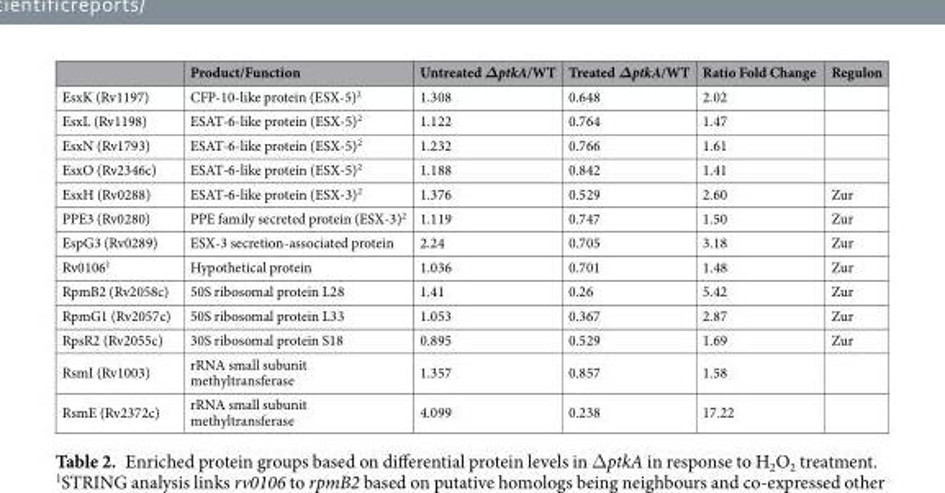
<table><thead><tr><td></td><td>Product/Function</td><td>Untreated ΔptkA/WT</td><td>Treated ΔptkA/WT</td><td>Ratio Fold Change</td><td>Regulon</td></tr></thead><tbody><tr><td>EsxK (Rv1197)</td><td>CFP-10-like protein (ESX-5)<sup>2</sup></td><td>1.308</td><td>0.648</td><td>2.02</td><td></td></tr><tr><td>EsxL (Rv1198)</td><td>ESAT-6-like protein (ESX-5)<sup>2</sup></td><td>1.122</td><td>0.764</td><td>1.47</td><td></td></tr><tr><td>EsxN (Rv1793)</td><td>ESAT-6-like protein (ESX-5)<sup>2</sup></td><td>1.232</td><td>0.766</td><td>1.61</td><td></td></tr><tr><td>EsxO (Rv2346c)</td><td>ESAT-6-like protein (ESX-5)<sup>2</sup></td><td>1.188</td><td>0.842</td><td>1.41</td><td></td></tr><tr><td>EsxH (Rv0288)</td><td>ESAT-6-like protein (ESX-3)<sup>2</sup></td><td>1.376</td><td>0.529</td><td>2.60</td><td>Zur</td></tr><tr><td>PPE3 (Rv0280)</td><td>PPE family secreted protein (ESX-3)<sup>2</sup></td><td>1.119</td><td>0.747</td><td>1.50</td><td>Zur</td></tr><tr><td>EspG3 (Rv0289)</td><td>ESX-3 secretion-associated protein</td><td>2.24</td><td>0.705</td><td>3.18</td><td>Zur</td></tr><tr><td>Rv0106<sup>1</sup></td><td>Hypothetical protein</td><td>1.036</td><td>0.701</td><td>1.48</td><td>Zur</td></tr><tr><td>RpmB2 (Rv2058c)</td><td>50S ribosomal protein L28</td><td>1.41</td><td>0.26</td><td>5.42</td><td>Zur</td></tr><tr><td>RpmG1 (Rv2057c)</td><td>50S ribosomal protein L33</td><td>1.053</td><td>0.367</td><td>2.87</td><td>Zur</td></tr><tr><td>RpsR2 (Rv2055c)</td><td>30S ribosomal protein S18</td><td>0.895</td><td>0.529</td><td>1.69</td><td>Zur</td></tr><tr><td>RsmI (Rv1003)</td><td>rRNA small subunit methyltransferase</td><td>1.357</td><td>0.857</td><td>1.58</td><td></td></tr><tr><td>RsmE (Rv2372c)</td><td>rRNA small subunit methyltransferase</td><td>4.099</td><td>0.238</td><td>17.22</td><td></td></tr></tbody></table>